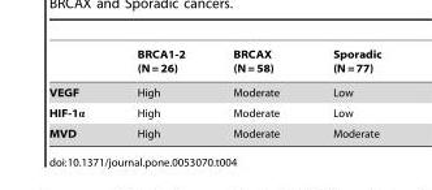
<table><thead><tr><td></td><td>BRCA1-2 (N = 26)</td><td>BRCAX (N = 58)</td><td>Sporadic (N = 77)</td></tr></thead><tbody><tr><td>VEGF</td><td>High</td><td>Moderate</td><td>Low</td></tr><tr><td>HIF-1α</td><td>High</td><td>Moderate</td><td>Low</td></tr><tr><td>MVD</td><td>High</td><td>Moderate</td><td>Moderate</td></tr></tbody></table>